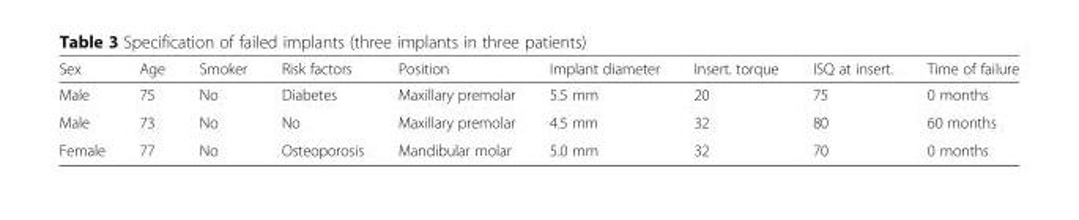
<table><thead><tr><td>Sex</td><td>Age</td><td>Smoker</td><td>Risk factors</td><td>Position</td><td>Implant diameter</td><td>Insert. torque</td><td>ISQ at insert.</td><td>Time of failure</td></tr></thead><tbody><tr><td>Male</td><td>75</td><td>No</td><td>Diabetes</td><td>Maxillary premolar</td><td>5.5 mm</td><td>20</td><td>75</td><td>0 months</td></tr><tr><td>Male</td><td>73</td><td>No</td><td>No</td><td>Maxillary premolar</td><td>4.5 mm</td><td>32</td><td>80</td><td>60 months</td></tr><tr><td>Female</td><td>77</td><td>No</td><td>Osteoporosis</td><td>Mandibular molar</td><td>5.0 mm</td><td>32</td><td>70</td><td>0 months</td></tr></tbody></table>